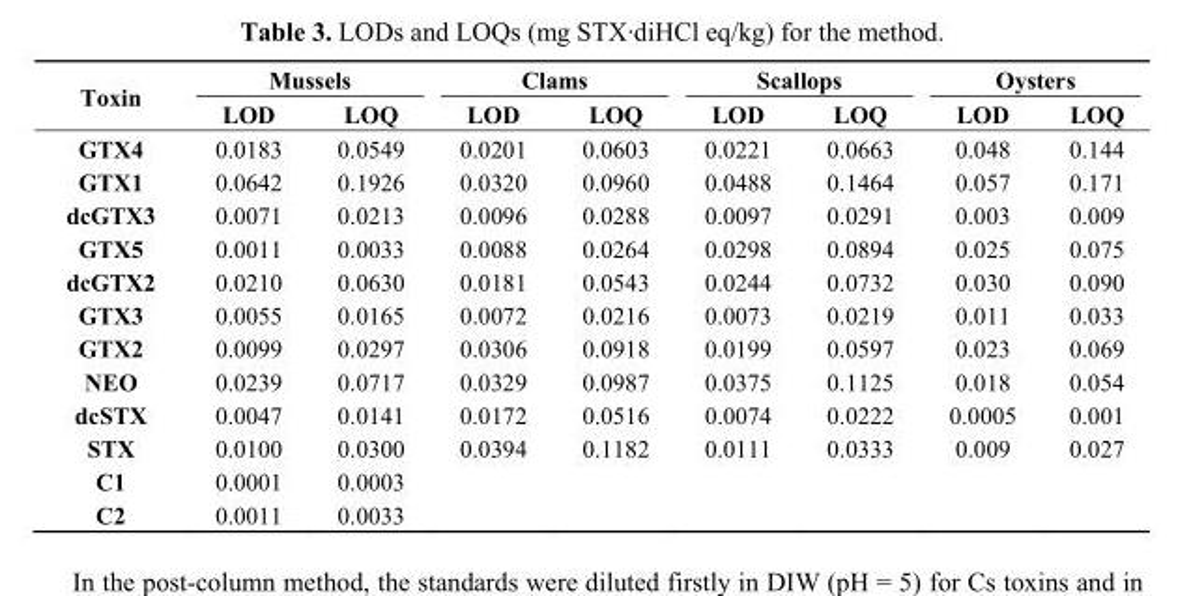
<table><thead><tr><td rowspan="2">Toxin</td><td colspan="2">Mussels</td><td colspan="2">Clams</td><td colspan="2">Scallops</td><td colspan="2">Oysters</td></tr><tr><td>LOD</td><td>LOQ</td><td>LOD</td><td>LOQ</td><td>LOD</td><td>LOQ</td><td>LOD</td><td>LOQ</td></tr></thead><tbody><tr><td>GTX4</td><td>0.0183</td><td>0.0549</td><td>0.0201</td><td>0.0603</td><td>0.0221</td><td>0.0663</td><td>0.048</td><td>0.144</td></tr><tr><td>GTX1</td><td>0.0642</td><td>0.1926</td><td>0.0320</td><td>0.0960</td><td>0.0488</td><td>0.1464</td><td>0.057</td><td>0.171</td></tr><tr><td>dcGTX3</td><td>0.0071</td><td>0.0213</td><td>0.0096</td><td>0.0288</td><td>0.0097</td><td>0.0291</td><td>0.003</td><td>0.009</td></tr><tr><td>GTX5</td><td>0.0011</td><td>0.0033</td><td>0.0088</td><td>0.0264</td><td>0.0298</td><td>0.0894</td><td>0.025</td><td>0.075</td></tr><tr><td>dcGTX2</td><td>0.0210</td><td>0.0630</td><td>0.0181</td><td>0.0543</td><td>0.0244</td><td>0.0732</td><td>0.030</td><td>0.090</td></tr><tr><td>GTX3</td><td>0.0055</td><td>0.0165</td><td>0.0072</td><td>0.0216</td><td>0.0073</td><td>0.0219</td><td>0.011</td><td>0.033</td></tr><tr><td>GTX2</td><td>0.0099</td><td>0.0297</td><td>0.0306</td><td>0.0918</td><td>0.0199</td><td>0.0597</td><td>0.023</td><td>0.069</td></tr><tr><td>NEO</td><td>0.0239</td><td>0.0717</td><td>0.0329</td><td>0.0987</td><td>0.0375</td><td>0.1125</td><td>0.018</td><td>0.054</td></tr><tr><td>dcSTX</td><td>0.0047</td><td>0.0141</td><td>0.0172</td><td>0.0516</td><td>0.0074</td><td>0.0222</td><td>0.0005</td><td>0.001</td></tr><tr><td>STX</td><td>0.0100</td><td>0.0300</td><td>0.0394</td><td>0.1182</td><td>0.0111</td><td>0.0333</td><td>0.009</td><td>0.027</td></tr><tr><td>C1</td><td>0.0001</td><td>0.0003</td><td></td><td></td><td></td><td></td><td></td><td></td></tr><tr><td>C2</td><td>0.0011</td><td>0.0033</td><td></td><td></td><td></td><td></td><td></td><td></td></tr></tbody></table>